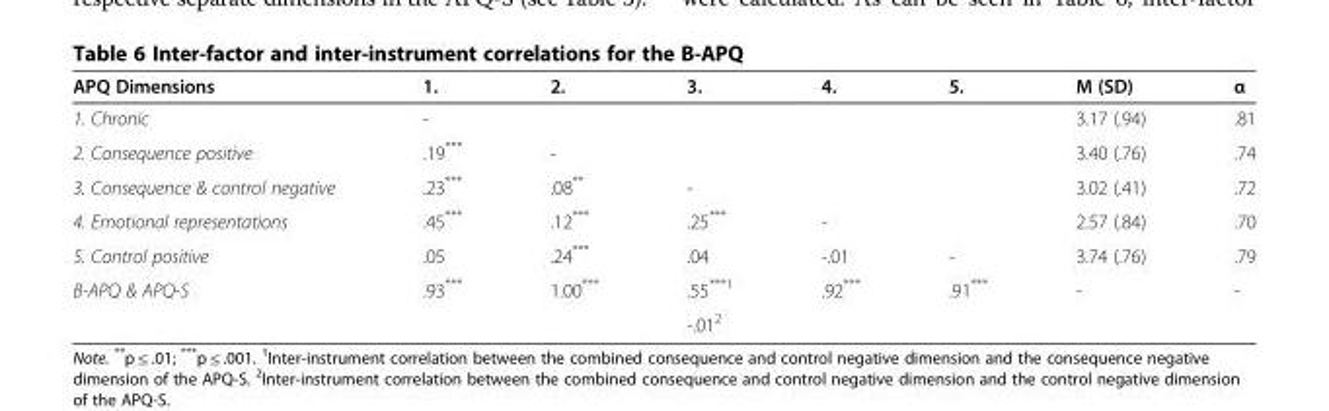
<table><thead><tr><td>APQ Dimensions</td><td>1.</td><td>2.</td><td>3.</td><td>4.</td><td>5.</td><td>M (SD)</td><td>α</td></tr></thead><tbody><tr><td>1. Chronic</td><td>-</td><td></td><td></td><td></td><td></td><td>3.17 (.94)</td><td>.81</td></tr><tr><td>2. Consequence positive</td><td>.19***</td><td>-</td><td></td><td></td><td></td><td>3.40 (.76)</td><td>.74</td></tr><tr><td>3. Consequence &amp; control negative</td><td>.23***</td><td>.08**</td><td>-</td><td></td><td></td><td>3.02 (.41)</td><td>.72</td></tr><tr><td>4. Emotional representations</td><td>.45***</td><td>.12***</td><td>.25***</td><td>-</td><td></td><td>2.57 (.84)</td><td>.70</td></tr><tr><td>5. Control positive</td><td>.05</td><td>.24***</td><td>.04</td><td>-.01</td><td>-</td><td>3.74 (.76)</td><td>.79</td></tr><tr><td rowspan="2">B-APQ &amp; APQ-S</td><td rowspan="2">.93***</td><td rowspan="2">1.00***</td><td>.55<sup>***1</sup></td><td rowspan="2">.92***</td><td rowspan="2">.91***</td><td rowspan="2">-</td><td rowspan="2">-</td></tr><tr><td>-.01<sup>2</sup></td></tr></tbody></table>